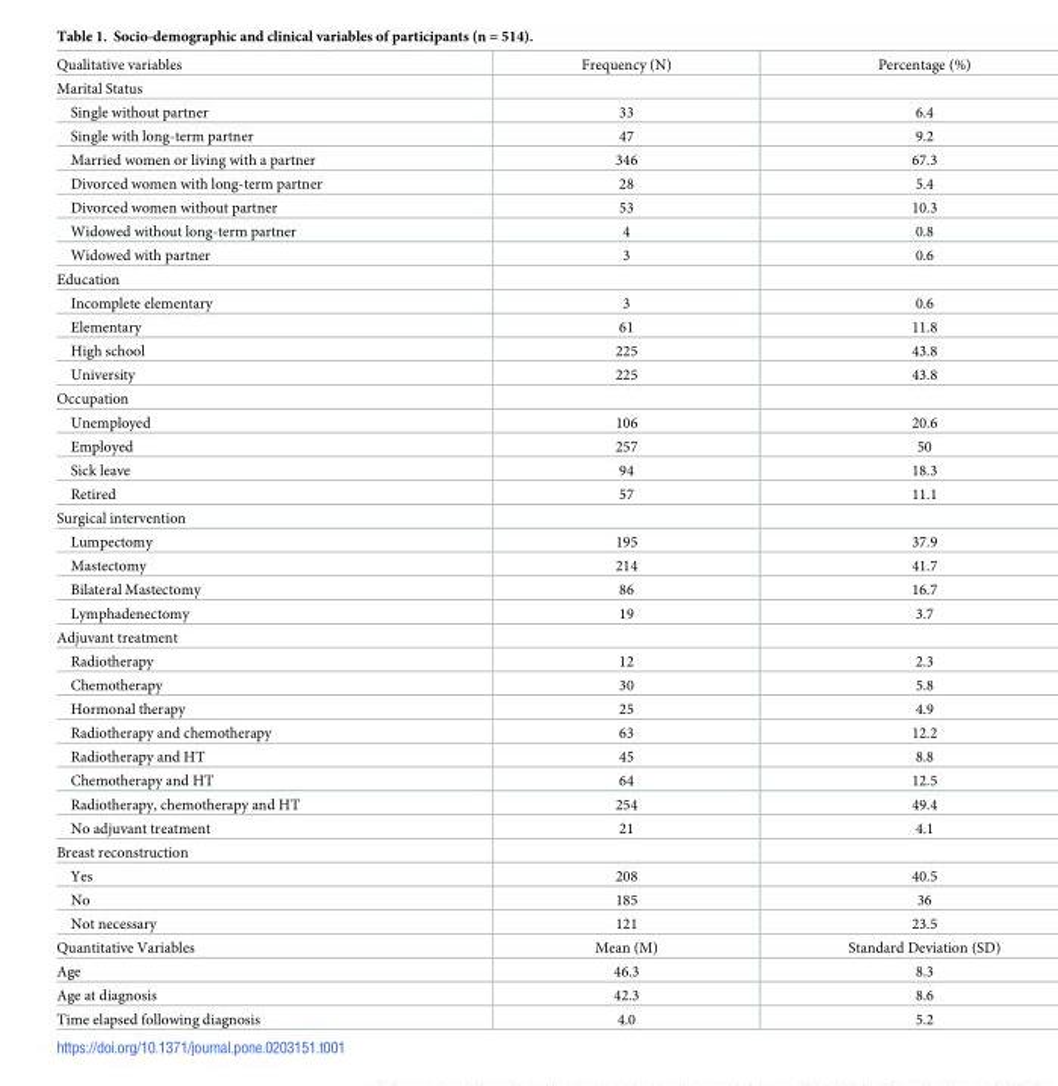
<table><tbody><tr><td>Qualitative variables</td><td>Frequency (N)</td><td>Percentage (%)</td></tr><tr><td colspan="3">Marital Status</td></tr><tr><td>Single without partner</td><td>33</td><td>6.4</td></tr><tr><td>Single with long-term partner</td><td>47</td><td>9.2</td></tr><tr><td>Married women or living with a partner</td><td>346</td><td>67.3</td></tr><tr><td>Divorced women with long-term partner</td><td>28</td><td>5.4</td></tr><tr><td>Divorced women without partner</td><td>53</td><td>10.3</td></tr><tr><td>Widowed without long-term partner</td><td>4</td><td>0.8</td></tr><tr><td>Widowed with partner</td><td>3</td><td>0.6</td></tr><tr><td colspan="3">Education</td></tr><tr><td>Incomplete elementary</td><td>3</td><td>0.6</td></tr><tr><td>Elementary</td><td>61</td><td>11.8</td></tr><tr><td>High school</td><td>225</td><td>43.8</td></tr><tr><td>University</td><td>225</td><td>43.8</td></tr><tr><td colspan="3">Occupation</td></tr><tr><td>Unemployed</td><td>106</td><td>20.6</td></tr><tr><td>Employed</td><td>257</td><td>50</td></tr><tr><td>Sick leave</td><td>94</td><td>18.3</td></tr><tr><td>Retired</td><td>57</td><td>11.1</td></tr><tr><td colspan="3">Surgical intervention</td></tr><tr><td>Lumpectomy</td><td>195</td><td>37.9</td></tr><tr><td>Mastectomy</td><td>214</td><td>41.7</td></tr><tr><td>Bilateral Mastectomy</td><td>86</td><td>16.7</td></tr><tr><td>Lymphadenectomy</td><td>19</td><td>3.7</td></tr><tr><td colspan="3">Adjuvant treatment</td></tr><tr><td>Radiotherapy</td><td>12</td><td>2.3</td></tr><tr><td>Chemotherapy</td><td>30</td><td>5.8</td></tr><tr><td>Hormonal therapy</td><td>25</td><td>4.9</td></tr><tr><td>Radiotherapy and chemotherapy</td><td>63</td><td>12.2</td></tr><tr><td>Radiotherapy and HT</td><td>45</td><td>8.8</td></tr><tr><td>Chemotherapy and HT</td><td>64</td><td>12.5</td></tr><tr><td>Radiotherapy, chemotherapy and HT</td><td>254</td><td>49.4</td></tr><tr><td>No adjuvant treatment</td><td>21</td><td>4.1</td></tr><tr><td colspan="3">Breast reconstruction</td></tr><tr><td>Yes</td><td>208</td><td>40.5</td></tr><tr><td>No</td><td>185</td><td>36</td></tr><tr><td>Not necessary</td><td>121</td><td>23.5</td></tr><tr><td>Quantitative Variables</td><td>Mean (M)</td><td>Standard Deviation (SD)</td></tr><tr><td>Age</td><td>46.3</td><td>8.3</td></tr><tr><td>Age at diagnosis</td><td>42.3</td><td>8.6</td></tr><tr><td>Time elapsed following diagnosis</td><td>4.0</td><td>5.2</td></tr></tbody></table>